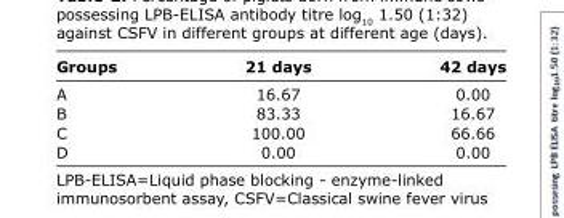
<table><thead><tr><td>Groups</td><td>21 days</td><td>42 days</td></tr></thead><tbody><tr><td>A</td><td>16.67</td><td>0.00</td></tr><tr><td>B</td><td>83.33</td><td>16.67</td></tr><tr><td>C</td><td>100.00</td><td>66.66</td></tr><tr><td>D</td><td>0.00</td><td>0.00</td></tr></tbody></table>